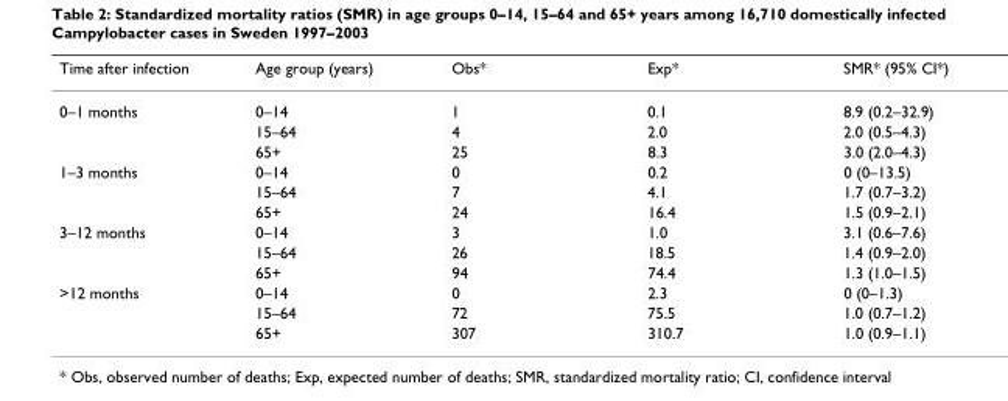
<table><thead><tr><td>Time after infection</td><td>Age group (years)</td><td>Obs*</td><td>Exp*</td><td>SMR* (95% CI*)</td></tr></thead><tbody><tr><td rowspan="3">0–1 months</td><td>0–14</td><td>1</td><td>0.1</td><td>8.9 (0.2–32.9)</td></tr><tr><td>15–64</td><td>4</td><td>2.0</td><td>2.0 (0.5–4.3)</td></tr><tr><td>65+</td><td>25</td><td>8.3</td><td>3.0 (2.0–4.3)</td></tr><tr><td rowspan="3">1–3 months</td><td>0–14</td><td>0</td><td>0.2</td><td>0 (0–13.5)</td></tr><tr><td>15–64</td><td>7</td><td>4.1</td><td>1.7 (0.7–3.2)</td></tr><tr><td>65+</td><td>24</td><td>16.4</td><td>1.5 (0.9–2.1)</td></tr><tr><td rowspan="3">3–12 months</td><td>0–14</td><td>3</td><td>1.0</td><td>3.1 (0.6–7.6)</td></tr><tr><td>15–64</td><td>26</td><td>18.5</td><td>1.4 (0.9–2.0)</td></tr><tr><td>65+</td><td>94</td><td>74.4</td><td>1.3 (1.0–1.5)</td></tr><tr><td rowspan="3">&gt;12 months</td><td>0–14</td><td>0</td><td>2.3</td><td>0 (0–1.3)</td></tr><tr><td>15–64</td><td>72</td><td>75.5</td><td>1.0 (0.7–1.2)</td></tr><tr><td>65+</td><td>307</td><td>310.7</td><td>1.0 (0.9–1.1)</td></tr></tbody></table>